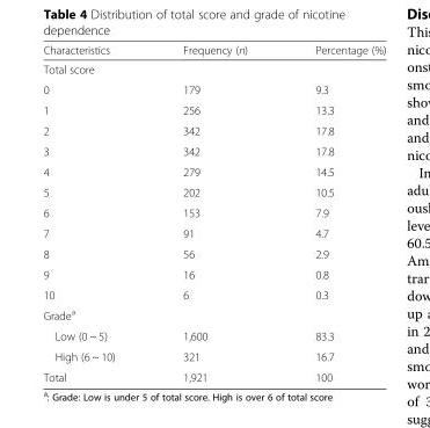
<table><thead><tr><td>Characteristics</td><td>Frequency (n)</td><td>Percentage (%)</td></tr></thead><tbody><tr><td colspan="3">Total score</td></tr><tr><td>0</td><td>179</td><td>9.3</td></tr><tr><td>1</td><td>256</td><td>13.3</td></tr><tr><td>2</td><td>342</td><td>17.8</td></tr><tr><td>3</td><td>342</td><td>17.8</td></tr><tr><td>4</td><td>279</td><td>14.5</td></tr><tr><td>5</td><td>202</td><td>10.5</td></tr><tr><td>6</td><td>153</td><td>7.9</td></tr><tr><td>7</td><td>91</td><td>4.7</td></tr><tr><td>8</td><td>56</td><td>2.9</td></tr><tr><td>9</td><td>16</td><td>0.8</td></tr><tr><td>10</td><td>6</td><td>0.3</td></tr><tr><td colspan="3">Grade<sup>a</sup></td></tr><tr><td>Low (0 ~ 5)</td><td>1,600</td><td>83.3</td></tr><tr><td>High (6 ~ 10)</td><td>321</td><td>16.7</td></tr><tr><td>Total</td><td>1,921</td><td>100</td></tr></tbody></table>